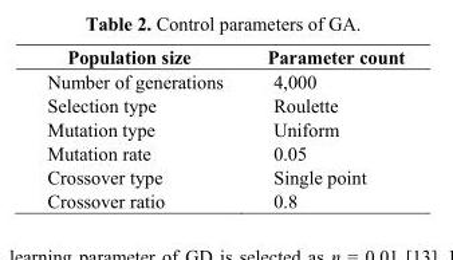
<table><thead><tr><td>Population size</td><td>Parameter count</td></tr></thead><tbody><tr><td>Number of generations</td><td>4,000</td></tr><tr><td>Selection type</td><td>Roulette</td></tr><tr><td>Mutation type</td><td>Uniform</td></tr><tr><td>Mutation rate</td><td>0.05</td></tr><tr><td>Crossover type</td><td>Single point</td></tr><tr><td>Crossover ratio</td><td>0.8</td></tr></tbody></table>